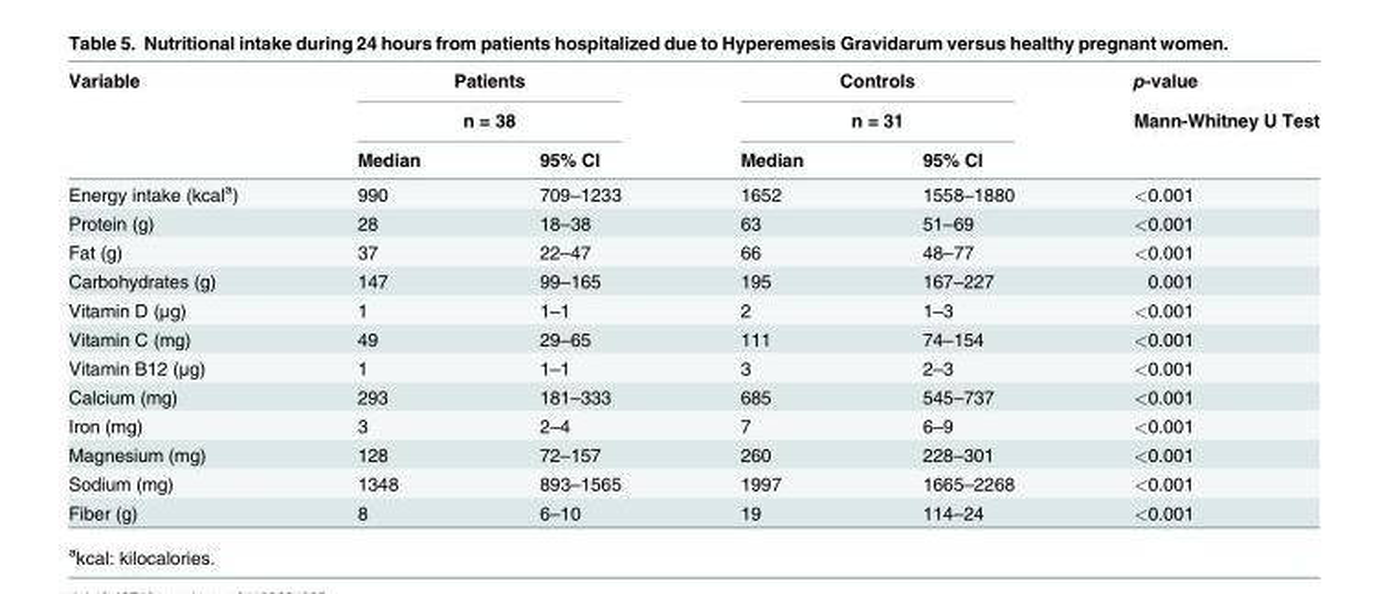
<table><thead><tr><td rowspan="3">Variable</td><td rowspan="2" colspan="2">Patients n = 38</td><td rowspan="2" colspan="2">Controls n = 31</td><td rowspan="3">p-value Mann-Whitney U Test</td></tr><tr></tr><tr><td>Median</td><td>95% CI</td><td>Median</td><td>95% CI</td></tr></thead><tbody><tr><td>Energy intake (kcal<sup>a</sup>)</td><td>990</td><td>709–1233</td><td>1652</td><td>1558–1880</td><td>&lt;0.001</td></tr><tr><td>Protein (g)</td><td>28</td><td>18–38</td><td>63</td><td>51–69</td><td>&lt;0.001</td></tr><tr><td>Fat (g)</td><td>37</td><td>22–47</td><td>66</td><td>48–77</td><td>&lt;0.001</td></tr><tr><td>Carbohydrates (g)</td><td>147</td><td>99–165</td><td>195</td><td>167–227</td><td>0.001</td></tr><tr><td>Vitamin D (μg)</td><td>1</td><td>1–1</td><td>2</td><td>1–3</td><td>&lt;0.001</td></tr><tr><td>Vitamin C (mg)</td><td>49</td><td>29–65</td><td>111</td><td>74–154</td><td>&lt;0.001</td></tr><tr><td>Vitamin B12 (μg)</td><td>1</td><td>1–1</td><td>3</td><td>2–3</td><td>&lt;0.001</td></tr><tr><td>Calcium (mg)</td><td>293</td><td>181–333</td><td>685</td><td>545–737</td><td>&lt;0.001</td></tr><tr><td>Iron (mg)</td><td>3</td><td>2–4</td><td>7</td><td>6–9</td><td>&lt;0.001</td></tr><tr><td>Magnesium (mg)</td><td>128</td><td>72–157</td><td>260</td><td>228–301</td><td>&lt;0.001</td></tr><tr><td>Sodium (mg)</td><td>1348</td><td>893–1565</td><td>1997</td><td>1665–2268</td><td>&lt;0.001</td></tr><tr><td>Fiber (g)</td><td>8</td><td>6–10</td><td>19</td><td>114–24</td><td>&lt;0.001</td></tr></tbody></table>